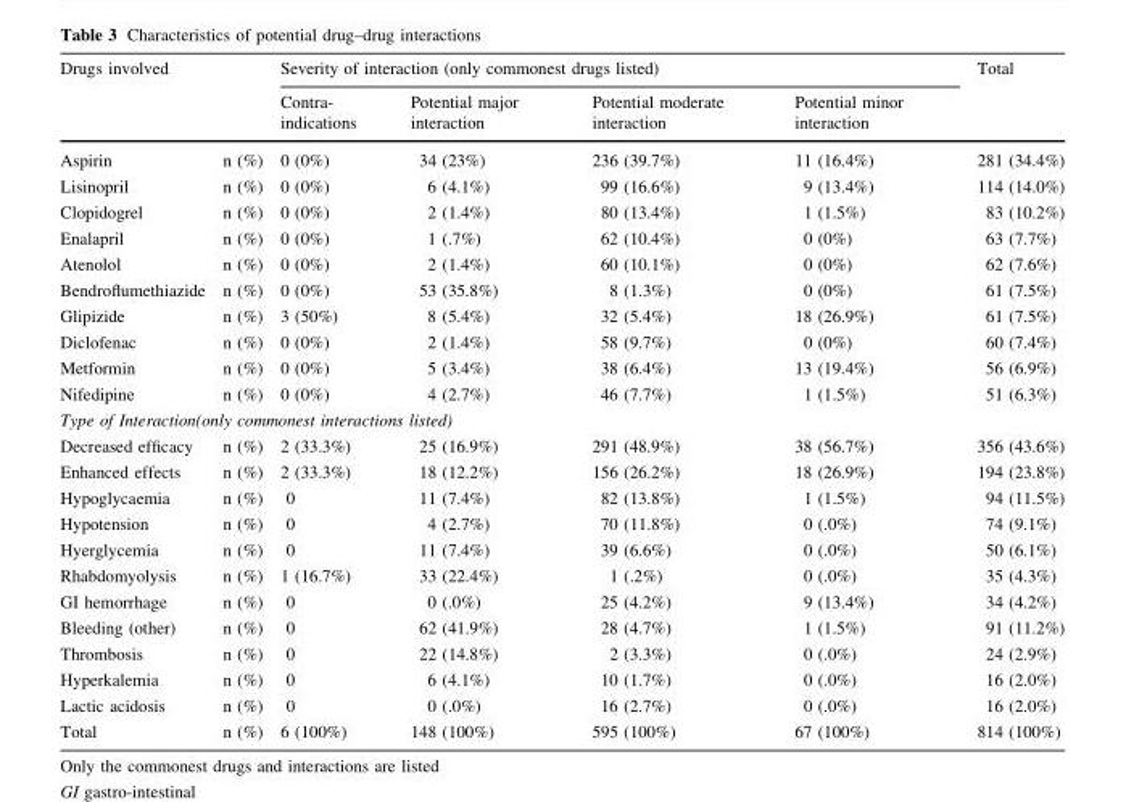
<table><thead><tr><td rowspan="2">Drugs involved</td><td rowspan="2"></td><td colspan="4">Severity of interaction (only commonest drugs listed)</td><td rowspan="2">Total</td></tr><tr><td>Contra- indications</td><td>Potential major interaction</td><td>Potential moderate interaction</td><td>Potential minor interaction</td></tr></thead><tbody><tr><td>Aspirin</td><td>n (%)</td><td>0 (0%)</td><td>34 (23%)</td><td>236 (39.7%)</td><td>11 (16.4%)</td><td>281 (34.4%)</td></tr><tr><td>Lisinopril</td><td>n (%)</td><td>0 (0%)</td><td>6 (4.1%)</td><td>99 (16.6%)</td><td>9 (13.4%)</td><td>114 (14.0%)</td></tr><tr><td>Clopidogrel</td><td>n (%)</td><td>0 (0%)</td><td>2 (1.4%)</td><td>80 (13.4%)</td><td>1 (1.5%)</td><td>83 (10.2%)</td></tr><tr><td>Enalapril</td><td>n (%)</td><td>0 (0%)</td><td>1 (.7%)</td><td>62 (10.4%)</td><td>0 (0%)</td><td>63 (7.7%)</td></tr><tr><td>Atenolol</td><td>n (%)</td><td>0 (0%)</td><td>2 (1.4%)</td><td>60 (10.1%)</td><td>0 (0%)</td><td>62 (7.6%)</td></tr><tr><td>Bendroflumethiazide</td><td>n (%)</td><td>0 (0%)</td><td>53 (35.8%)</td><td>8 (1.3%)</td><td>0 (0%)</td><td>61 (7.5%)</td></tr><tr><td>Glipizide</td><td>n (%)</td><td>3 (50%)</td><td>8 (5.4%)</td><td>32 (5.4%)</td><td>18 (26.9%)</td><td>61 (7.5%)</td></tr><tr><td>Diclofenac</td><td>n (%)</td><td>0 (0%)</td><td>2 (1.4%)</td><td>58 (9.7%)</td><td>0 (0%)</td><td>60 (7.4%)</td></tr><tr><td>Metformin</td><td>n (%)</td><td>0 (0%)</td><td>5 (3.4%)</td><td>38 (6.4%)</td><td>13 (19.4%)</td><td>56 (6.9%)</td></tr><tr><td>Nifedipine</td><td>n (%)</td><td>0 (0%)</td><td>4 (2.7%)</td><td>46 (7.7%)</td><td>1 (1.5%)</td><td>51 (6.3%)</td></tr><tr><td colspan="7">Type of Interaction(only commonest interactions listed)</td></tr><tr><td>Decreased efficacy</td><td>n (%)</td><td>2 (33.3%)</td><td>25 (16.9%)</td><td>291 (48.9%)</td><td>38 (56.7%)</td><td>356 (43.6%)</td></tr><tr><td>Enhanced effects</td><td>n (%)</td><td>2 (33.3%)</td><td>18 (12.2%)</td><td>156 (26.2%)</td><td>18 (26.9%)</td><td>194 (23.8%)</td></tr><tr><td>Hypoglycaemia</td><td>n (%)</td><td>0</td><td>11 (7.4%)</td><td>82 (13.8%)</td><td>1 (1.5%)</td><td>94 (11.5%)</td></tr><tr><td>Hypotension</td><td>n (%)</td><td>0</td><td>4 (2.7%)</td><td>70 (11.8%)</td><td>0 (.0%)</td><td>74 (9.1%)</td></tr><tr><td>Hyerglycemia</td><td>n (%)</td><td>0</td><td>11 (7.4%)</td><td>39 (6.6%)</td><td>0 (.0%)</td><td>50 (6.1%)</td></tr><tr><td>Rhabdomyolysis</td><td>n (%)</td><td>1 (16.7%)</td><td>33 (22.4%)</td><td>1 (.2%)</td><td>0 (.0%)</td><td>35 (4.3%)</td></tr><tr><td>GI hemorrhage</td><td>n (%)</td><td>0</td><td>0 (.0%)</td><td>25 (4.2%)</td><td>9 (13.4%)</td><td>34 (4.2%)</td></tr><tr><td>Bleeding (other)</td><td>n (%)</td><td>0</td><td>62 (41.9%)</td><td>28 (4.7%)</td><td>1 (1.5%)</td><td>91 (11.2%)</td></tr><tr><td>Thrombosis</td><td>n (%)</td><td>0</td><td>22 (14.8%)</td><td>2 (3.3%)</td><td>0 (.0%)</td><td>24 (2.9%)</td></tr><tr><td>Hyperkalemia</td><td>n (%)</td><td>0</td><td>6 (4.1%)</td><td>10 (1.7%)</td><td>0 (.0%)</td><td>16 (2.0%)</td></tr><tr><td>Lactic acidosis</td><td>n (%)</td><td>0</td><td>0 (.0%)</td><td>16 (2.7%)</td><td>0 (.0%)</td><td>16 (2.0%)</td></tr><tr><td>Total</td><td>n (%)</td><td>6 (100%)</td><td>148 (100%)</td><td>595 (100%)</td><td>67 (100%)</td><td>814 (100%)</td></tr></tbody></table>